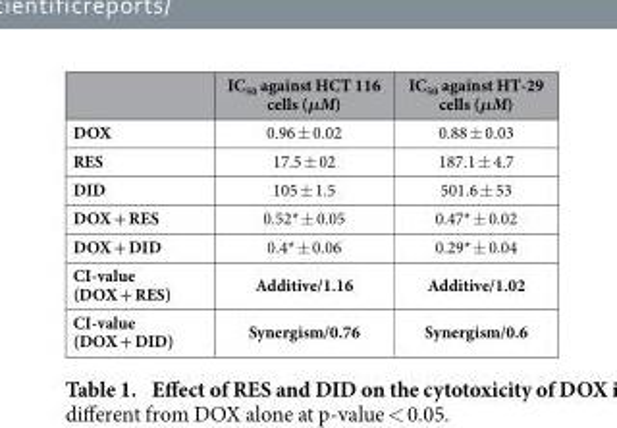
<table><thead><tr><td></td><td>IC<sub>50</sub> against HCT 116 cells (μM)</td><td>IC<sub>50</sub> against HT-29 cells (μM)</td></tr></thead><tbody><tr><td>DOX</td><td>0.96 ± 0.02</td><td>0.88 ± 0.03</td></tr><tr><td>RES</td><td>17.5 ± 02</td><td>187.1 ± 4.7</td></tr><tr><td>DID</td><td>105 ± 1.5</td><td>501.6 ± 53</td></tr><tr><td>DOX + RES</td><td>0.52* ± 0.05</td><td>0.47* ± 0.02</td></tr><tr><td>DOX + DID</td><td>0.4* ± 0.06</td><td>0.29* ± 0.04</td></tr><tr><td>CI-value (DOX + RES)</td><td>Additive/1.16</td><td>Additive/1.02</td></tr><tr><td>CI-value (DOX + DID)</td><td>Synergism/0.76</td><td>Synergism/0.6</td></tr></tbody></table>